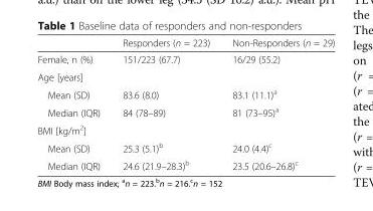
<table><thead><tr><td></td><td>Responders (n = 223)</td><td>Non-Responders (n = 29)</td></tr></thead><tbody><tr><td>Female, n (%)</td><td>151/223 (67.7)</td><td>16/29 (55.2)</td></tr><tr><td colspan="3">Age [years]</td></tr><tr><td>Mean (SD)</td><td>83.6 (8.0)</td><td>83.1 (11.1)<sup>a</sup></td></tr><tr><td>Median (IQR)</td><td>84 (78–89)</td><td>81 (73–95)<sup>a</sup></td></tr><tr><td colspan="3">BMI [kg/m<sup>2</sup>]</td></tr><tr><td>Mean (SD)</td><td>25.3 (5.1)<sup>b</sup></td><td>24.0 (4.4)<sup>c</sup></td></tr><tr><td>Median (IQR)</td><td>24.6 (21.9–28.3)<sup>b</sup></td><td>23.5 (20.6–26.8)<sup>c</sup></td></tr></tbody></table>